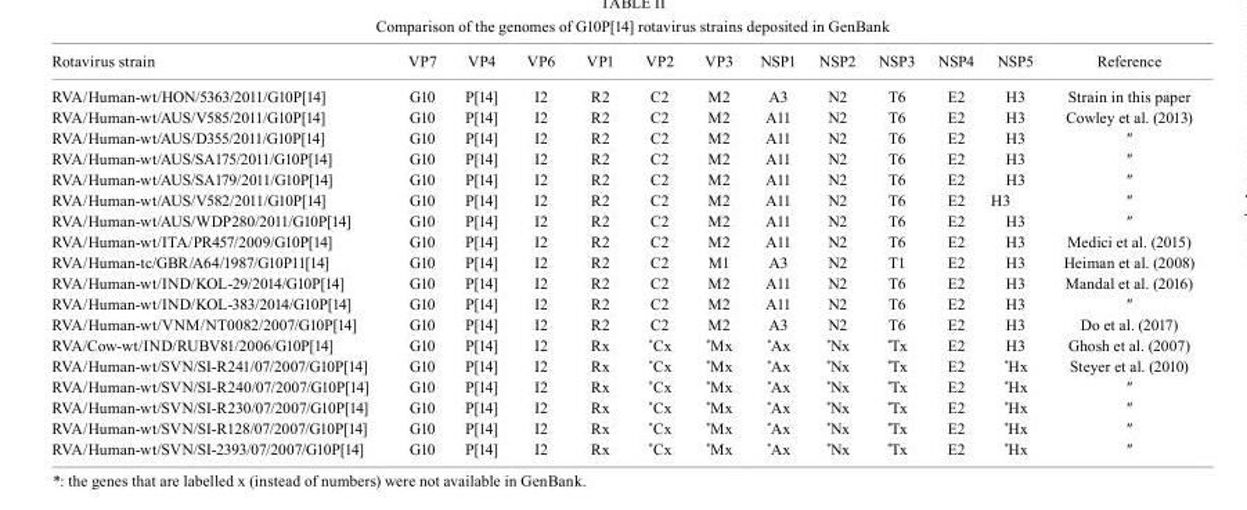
<table><thead><tr><td>Rotavirus strain</td><td>VP7</td><td>VP4</td><td>VP6</td><td>VP1</td><td>VP2</td><td>VP3</td><td>NSP1</td><td>NSP2</td><td>NSP3</td><td>NSP4</td><td>NSP5</td><td>Reference</td></tr></thead><tbody><tr><td>RVA/Human-wt/HON/5363/2011/G10P[14]</td><td>G10</td><td>P[14]</td><td>I2</td><td>R2</td><td>C2</td><td>M2</td><td>A3</td><td>N2</td><td>T6</td><td>E2</td><td>H3</td><td>Strain in this paper</td></tr><tr><td>RVA/Human-wt/AUS/V585/2011/G10P[14]</td><td>G10</td><td>P[14]</td><td>I2</td><td>R2</td><td>C2</td><td>M2</td><td>A11</td><td>N2</td><td>T6</td><td>E2</td><td>H3</td><td>Cowley et al. (2013)</td></tr><tr><td>RVA/Human-wt/AUS/D355/2011/G10P[14]</td><td>G10</td><td>P[14]</td><td>I2</td><td>R2</td><td>C2</td><td>M2</td><td>A11</td><td>N2</td><td>T6</td><td>E2</td><td>H3</td><td>″</td></tr><tr><td>RVA/Human-wt/AUS/SA175/2011/G10P[14]</td><td>G10</td><td>P[14]</td><td>I2</td><td>R2</td><td>C2</td><td>M2</td><td>A11</td><td>N2</td><td>T6</td><td>E2</td><td>H3</td><td>″</td></tr><tr><td>RVA/Human-wt/AUS/SA179/2011/G10P[14]</td><td>G10</td><td>P[14]</td><td>I2</td><td>R2</td><td>C2</td><td>M2</td><td>A11</td><td>N2</td><td>T6</td><td>E2</td><td>H3</td><td>″</td></tr><tr><td>RVA/Human-wt/AUS/V582/2011/G10P[14]</td><td>G10</td><td>P[14]</td><td>I2</td><td>R2</td><td>C2</td><td>M2</td><td>A11</td><td>N2</td><td>T6</td><td>E2</td><td>H3</td><td>″</td></tr><tr><td>RVA/Human-wt/AUS/WDP280/2011/G10P[14]</td><td>G10</td><td>P[14]</td><td>I2</td><td>R2</td><td>C2</td><td>M2</td><td>A11</td><td>N2</td><td>T6</td><td>E2</td><td>H3</td><td>″</td></tr><tr><td>RVA/Human-wt/ITA/PR457/2009/G10P[14]</td><td>G10</td><td>P[14]</td><td>I2</td><td>R2</td><td>C2</td><td>M2</td><td>A11</td><td>N2</td><td>T6</td><td>E2</td><td>H3</td><td>Medici et al. (2015)</td></tr><tr><td>RVA/Human-tc/GBR/A64/1987/G10P11[14]</td><td>G10</td><td>P[14]</td><td>I2</td><td>R2</td><td>C2</td><td>M1</td><td>A3</td><td>N2</td><td>T1</td><td>E2</td><td>H3</td><td>Heiman et al. (2008)</td></tr><tr><td>RVA/Human-wt/IND/KOL-29/2014/G10P[14]</td><td>G10</td><td>P[14]</td><td>I2</td><td>R2</td><td>C2</td><td>M2</td><td>A11</td><td>N2</td><td>T6</td><td>E2</td><td>H3</td><td>Mandal et al. (2016)</td></tr><tr><td>RVA/Human-wt/IND/KOL-383/2014/G10P[14]</td><td>G10</td><td>P[14]</td><td>I2</td><td>R2</td><td>C2</td><td>M2</td><td>A11</td><td>N2</td><td>T6</td><td>E2</td><td>H3</td><td>″</td></tr><tr><td>RVA/Human-wt/VNM/NT0082/2007/G10P[14]</td><td>G10</td><td>P[14]</td><td>I2</td><td>R2</td><td>C2</td><td>M2</td><td>A3</td><td>N2</td><td>T6</td><td>E2</td><td>H3</td><td>Do et al. (2017)</td></tr><tr><td>RVA/Cow-wt/IND/RUBV81/2006/G10P[14]</td><td>G10</td><td>P[14]</td><td>I2</td><td>Rx</td><td>*Cx</td><td>*Mx</td><td>*Ax</td><td>*Nx</td><td>*Tx</td><td>E2</td><td>H3</td><td>Ghosh et al. (2007)</td></tr><tr><td>RVA/Human-wt/SVN/SI-R241/07/2007/G10P[14]</td><td>G10</td><td>P[14]</td><td>I2</td><td>Rx</td><td>*Cx</td><td>*Mx</td><td>*Ax</td><td>*Nx</td><td>*Tx</td><td>E2</td><td>*Hx</td><td>Steyer et al. (2010)</td></tr><tr><td>RVA/Human-wt/SVN/SI-R240/07/2007/G10P[14]</td><td>G10</td><td>P[14]</td><td>I2</td><td>Rx</td><td>*Cx</td><td>*Mx</td><td>*Ax</td><td>*Nx</td><td>*Tx</td><td>E2</td><td>*Hx</td><td>″</td></tr><tr><td>RVA/Human-wt/SVN/SI-R230/07/2007/G10P[14]</td><td>G10</td><td>P[14]</td><td>I2</td><td>Rx</td><td>*Cx</td><td>*Mx</td><td>*Ax</td><td>*Nx</td><td>*Tx</td><td>E2</td><td>*Hx</td><td>″</td></tr><tr><td>RVA/Human-wt/SVN/SI-R128/07/2007/G10P[14]</td><td>G10</td><td>P[14]</td><td>I2</td><td>Rx</td><td>*Cx</td><td>*Mx</td><td>*Ax</td><td>*Nx</td><td>*Tx</td><td>E2</td><td>*Hx</td><td>″</td></tr><tr><td>RVA/Human-wt/SVN/SI-2393/07/2007/G10P[14]</td><td>G10</td><td>P[14]</td><td>I2</td><td>Rx</td><td>*Cx</td><td>*Mx</td><td>*Ax</td><td>*Nx</td><td>*Tx</td><td>E2</td><td>*Hx</td><td>″</td></tr></tbody></table>